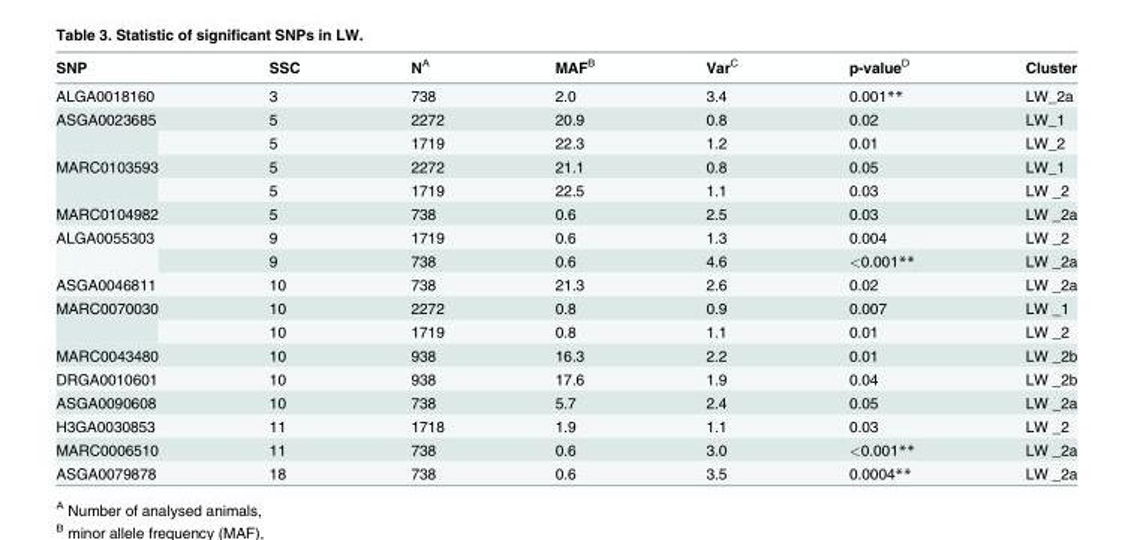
<table><thead><tr><td>SNP</td><td>SSC</td><td>N<sup>A</sup></td><td>MAF<sup>B</sup></td><td>Var<sup>C</sup></td><td>p-value<sup>D</sup></td><td>Cluster</td></tr></thead><tbody><tr><td>ALGA0018160</td><td>3</td><td>738</td><td>2.0</td><td>3.4</td><td>0.001**</td><td>LW_2a</td></tr><tr><td rowspan="2">ASGA0023685</td><td>5</td><td>2272</td><td>20.9</td><td>0.8</td><td>0.02</td><td>LW_1</td></tr><tr><td>5</td><td>1719</td><td>22.3</td><td>1.2</td><td>0.01</td><td>LW_2</td></tr><tr><td rowspan="2">MARC0103593</td><td>5</td><td>2272</td><td>21.1</td><td>0.8</td><td>0.05</td><td>LW_1</td></tr><tr><td>5</td><td>1719</td><td>22.5</td><td>1.1</td><td>0.03</td><td>LW _2</td></tr><tr><td>MARC0104982</td><td>5</td><td>738</td><td>0.6</td><td>2.5</td><td>0.03</td><td>LW _2a</td></tr><tr><td rowspan="2">ALGA0055303</td><td>9</td><td>1719</td><td>0.6</td><td>1.3</td><td>0.004</td><td>LW _2</td></tr><tr><td>9</td><td>738</td><td>0.6</td><td>4.6</td><td>&lt;0.001**</td><td>LW _2a</td></tr><tr><td>ASGA0046811</td><td>10</td><td>738</td><td>21.3</td><td>2.6</td><td>0.02</td><td>LW _2a</td></tr><tr><td rowspan="2">MARC0070030</td><td>10</td><td>2272</td><td>0.8</td><td>0.9</td><td>0.007</td><td>LW _1</td></tr><tr><td>10</td><td>1719</td><td>0.8</td><td>1.1</td><td>0.01</td><td>LW _2</td></tr><tr><td>MARC0043480</td><td>10</td><td>938</td><td>16.3</td><td>2.2</td><td>0.01</td><td>LW _2b</td></tr><tr><td>DRGA0010601</td><td>10</td><td>938</td><td>17.6</td><td>1.9</td><td>0.04</td><td>LW _2b</td></tr><tr><td>ASGA0090608</td><td>10</td><td>738</td><td>5.7</td><td>2.4</td><td>0.05</td><td>LW _2a</td></tr><tr><td>H3GA0030853</td><td>11</td><td>1718</td><td>1.9</td><td>1.1</td><td>0.03</td><td>LW _2</td></tr><tr><td>MARC0006510</td><td>11</td><td>738</td><td>0.6</td><td>3.0</td><td>&lt;0.001**</td><td>LW _2a</td></tr><tr><td>ASGA0079878</td><td>18</td><td>738</td><td>0.6</td><td>3.5</td><td>0.0004**</td><td>LW _2a</td></tr></tbody></table>